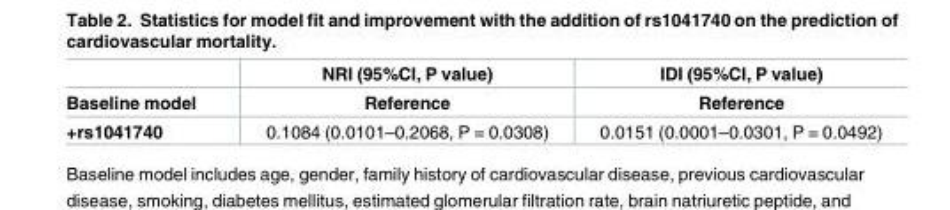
<table><thead><tr><td rowspan="2">Baseline model</td><td rowspan="2">NRI (95%CI, P value) Reference</td><td rowspan="2">IDI (95%CI, P value) Reference</td></tr><tr></tr></thead><tbody><tr><td>+rs1041740</td><td>0.1084 (0.0101–0.2068, P = 0.0308)</td><td>0.0151 (0.0001–0.0301, P = 0.0492)</td></tr></tbody></table>